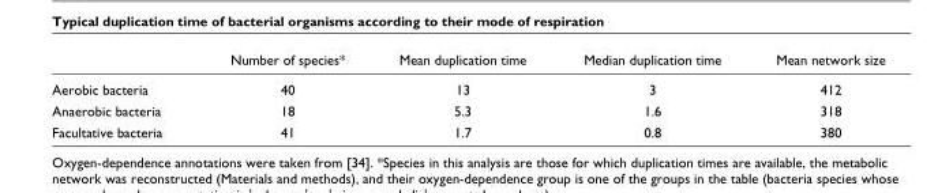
<table><thead><tr><td></td><td>Number of species*</td><td>Mean duplication time</td><td>Median duplication time</td><td>Mean network size</td></tr></thead><tbody><tr><td>Aerobic bacteria</td><td>40</td><td>13</td><td>3</td><td>412</td></tr><tr><td>Anaerobic bacteria</td><td>18</td><td>5.3</td><td>1.6</td><td>318</td></tr><tr><td>Facultative bacteria</td><td>41</td><td>1.7</td><td>0.8</td><td>380</td></tr></tbody></table>